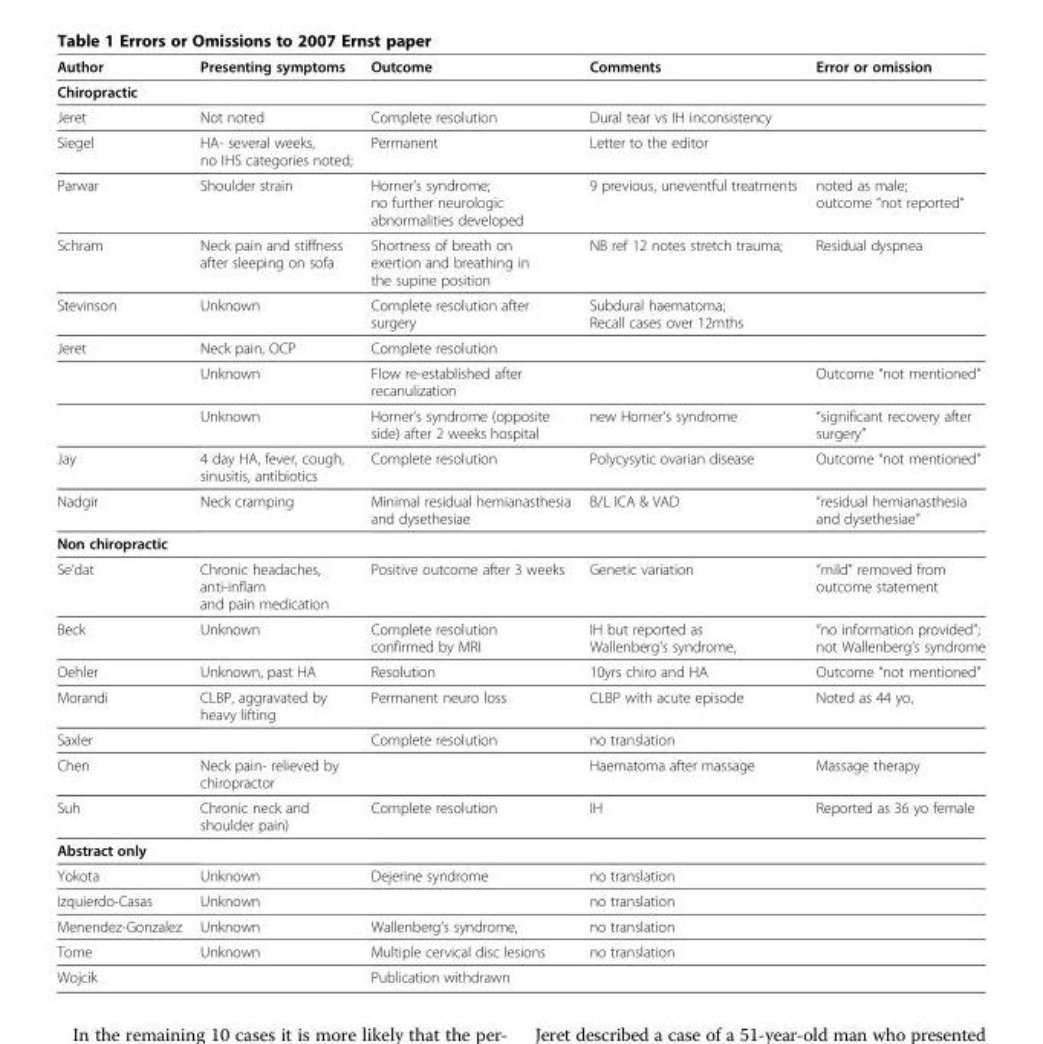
<table><thead><tr><td>Author</td><td>Presenting symptoms</td><td>Outcome</td><td>Comments</td><td>Error or omission</td></tr></thead><tbody><tr><td colspan="5">Chiropractic</td></tr><tr><td>Jeret</td><td>Not noted</td><td>Complete resolution</td><td>Dural tear vs IH inconsistency</td><td></td></tr><tr><td>Siegel</td><td>HA- several weeks, no IHS categories noted;</td><td>Permanent</td><td>Letter to the editor</td><td></td></tr><tr><td>Parwar</td><td>Shoulder strain</td><td>Horner’s syndrome; no further neurologic abnormalities developed</td><td>9 previous, uneventful treatments</td><td>noted as male; outcome “not reported“</td></tr><tr><td>Schram</td><td>Neck pain and stiffness after sleeping on sofa</td><td>Shortness of breath on exertion and breathing in the supine position</td><td>NB ref 12 notes stretch trauma;</td><td>Residual dyspnea</td></tr><tr><td>Stevinson</td><td>Unknown</td><td>Complete resolution after surgery</td><td>Subdural haematoma; Recall cases over 12mths</td><td></td></tr><tr><td rowspan="3">Jeret</td><td>Neck pain, OCP</td><td>Complete resolution</td><td></td><td></td></tr><tr><td>Unknown</td><td>Flow re-established after recanulization</td><td></td><td>Outcome “not mentioned”</td></tr><tr><td>Unknown</td><td>Horner’s syndrome (opposite side) after 2 weeks hospital</td><td>new Horner’s syndrome</td><td>“significant recovery after surgery”</td></tr><tr><td>Jay</td><td>4 day HA, fever, cough, sinusitis, antibiotics</td><td>Complete resolution</td><td>Polycysytic ovarian disease</td><td>Outcome “not mentioned”</td></tr><tr><td>Nadgir</td><td>Neck cramping</td><td>Minimal residual hemianasthesia and dysethesiae</td><td>B/L ICA &amp; VAD</td><td>“residual hemianasthesia and dysethesiae”</td></tr><tr><td colspan="5">Non chiropractic</td></tr><tr><td>Se’dat</td><td>Chronic headaches, anti-inflam and pain medication</td><td>Positive outcome after 3 weeks</td><td>Genetic variation</td><td>“mild” removed from outcome statement</td></tr><tr><td>Beck</td><td>Unknown</td><td>Complete resolution confirmed by MRI</td><td>IH but reported as Wallenberg’s syndrome,</td><td>“no information provided”; not Wallenberg’s syndrome</td></tr><tr><td>Oehler</td><td>Unknown, past HA</td><td>Resolution</td><td>10yrs chiro and HA</td><td>Outcome “not mentioned”</td></tr><tr><td>Morandi</td><td>CLBP, aggravated by heavy lifting</td><td>Permanent neuro loss</td><td>CLBP with acute episode</td><td>Noted as 44 yo,</td></tr><tr><td>Saxler</td><td></td><td>Complete resolution</td><td>no translation</td><td></td></tr><tr><td>Chen</td><td>Neck pain- relieved by chiropractor</td><td></td><td>Haematoma after massage</td><td>Massage therapy</td></tr><tr><td>Suh</td><td>Chronic neck and shoulder pain)</td><td>Complete resolution</td><td>IH</td><td>Reported as 36 yo female</td></tr><tr><td colspan="5">Abstract only</td></tr><tr><td>Yokota</td><td>Unknown</td><td>Dejerine syndrome</td><td>no translation</td><td></td></tr><tr><td>Izquierdo-Casas</td><td>Unknown</td><td></td><td>no translation</td><td></td></tr><tr><td>Menendez-Gonzalez</td><td>Unknown</td><td>Wallenberg’s syndrome,</td><td>no translation</td><td></td></tr><tr><td>Tome</td><td>Unknown</td><td>Multiple cervical disc lesions</td><td>no translation</td><td></td></tr><tr><td>Wojcik</td><td></td><td>Publication withdrawn</td><td></td><td></td></tr></tbody></table>